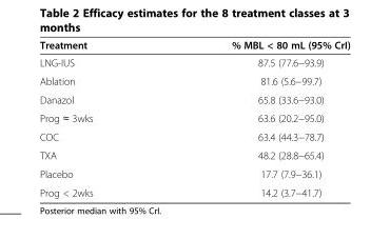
<table><thead><tr><td>Treatment</td><td>% MBL &lt; 80 mL (95% CrI)</td></tr></thead><tbody><tr><td>LNG-IUS</td><td>87.5 (77.6−93.9)</td></tr><tr><td>Ablation</td><td>81.6 (5.6−99.7)</td></tr><tr><td>Danazol</td><td>65.8 (33.6−93.0)</td></tr><tr><td>Prog ≈ 3wks</td><td>63.6 (20.2−95.0)</td></tr><tr><td>COC</td><td>63.4 (44.3−78.7)</td></tr><tr><td>TXA</td><td>48.2 (28.8−65.4)</td></tr><tr><td>Placebo</td><td>17.7 (7.9−36.1)</td></tr><tr><td>Prog &lt; 2wks</td><td>14.2 (3.7−41.7)</td></tr></tbody></table>